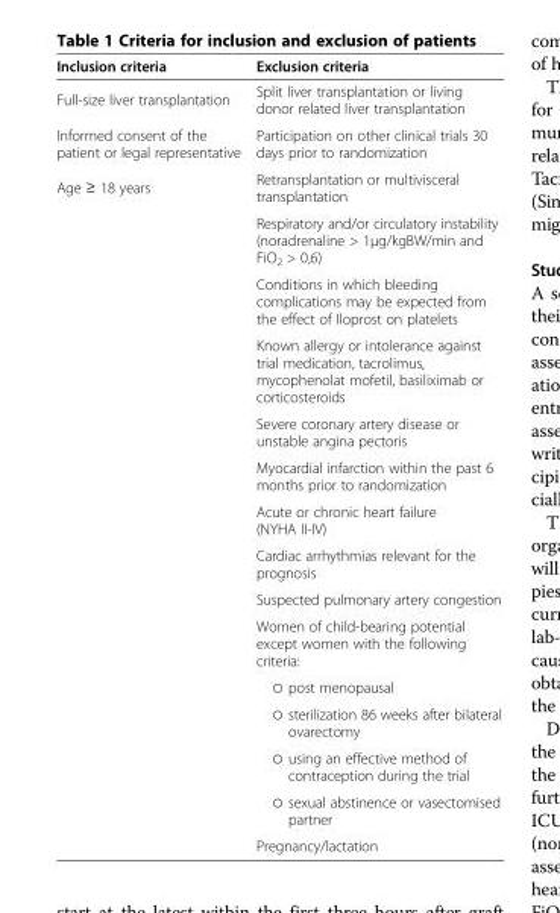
<table><thead><tr><td>Inclusion criteria</td><td>Exclusion criteria</td></tr></thead><tbody><tr><td>Full-size liver transplantation</td><td>Split liver transplantation or living donor related liver transplantation</td></tr><tr><td>Informed consent of the patient or legal representative</td><td>Participation on other clinical trials 30 days prior to randomization</td></tr><tr><td rowspan="15">Age ≥ 18 years</td><td>Retransplantation or multivisceral transplantation</td></tr><tr><td>Respiratory and/or circulatory instability (noradrenaline &gt; 1μg/kgBW/min and FiO<sub>2</sub> &gt; 0,6)</td></tr><tr><td>Conditions in which bleeding complications may be expected from the effect of Iloprost on platelets</td></tr><tr><td>Known allergy or intolerance against trial medication, tacrolimus, mycophenolat mofetil, basiliximab or corticosteroids</td></tr><tr><td>Severe coronary artery disease or unstable angina pectoris</td></tr><tr><td>Myocardial infarction within the past 6 months prior to randomization</td></tr><tr><td>Acute or chronic heart failure (NYHA II-IV)</td></tr><tr><td>Cardiac arrhythmias relevant for the prognosis</td></tr><tr><td>Suspected pulmonary artery congestion</td></tr><tr><td>Women of child-bearing potential except women with the following criteria:</td></tr><tr><td>○ post menopausal</td></tr><tr><td>○ sterilization 86 weeks after bilateral ovarectomy</td></tr><tr><td>○ using an effective method of contraception during the trial</td></tr><tr><td>○ sexual abstinence or vasectomised partner</td></tr><tr><td>Pregnancy/lactation</td></tr></tbody></table>